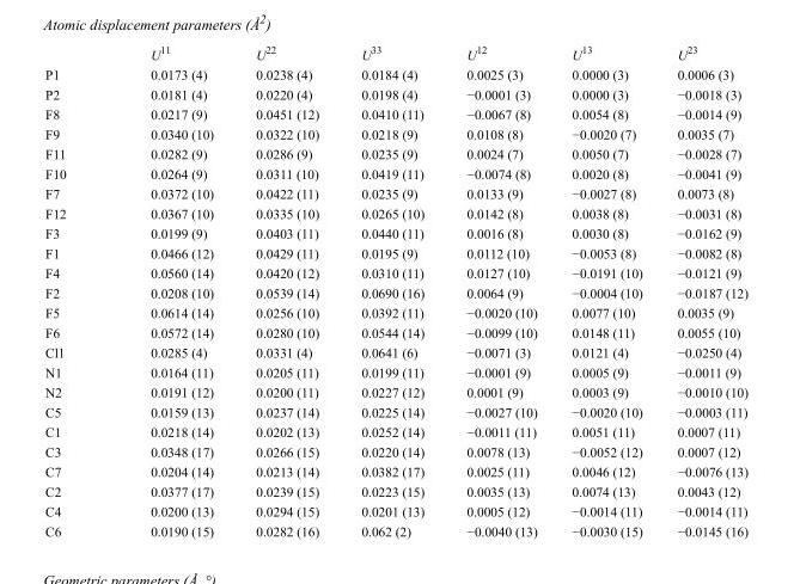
<table><thead><tr><td></td><td>U<sup>11</sup></td><td>U<sup>22</sup></td><td>U<sup>33</sup></td><td>U<sup>12</sup></td><td>U<sup>13</sup></td><td>U<sup>23</sup></td></tr></thead><tbody><tr><td>P1</td><td>0.0173 (4)</td><td>0.0238 (4)</td><td>0.0184 (4)</td><td>0.0025 (3)</td><td>0.0000 (3)</td><td>0.0006 (3)</td></tr><tr><td>P2</td><td>0.0181 (4)</td><td>0.0220 (4)</td><td>0.0198 (4)</td><td>−0.0001 (3)</td><td>0.0000 (3)</td><td>−0.0018 (3)</td></tr><tr><td>F8</td><td>0.0217 (9)</td><td>0.0451 (12)</td><td>0.0410 (11)</td><td>−0.0067 (8)</td><td>0.0054 (8)</td><td>−0.0014 (9)</td></tr><tr><td>F9</td><td>0.0340 (10)</td><td>0.0322 (10)</td><td>0.0218 (9)</td><td>0.0108 (8)</td><td>−0.0020 (7)</td><td>0.0035 (7)</td></tr><tr><td>F11</td><td>0.0282 (9)</td><td>0.0286 (9)</td><td>0.0235 (9)</td><td>0.0024 (7)</td><td>0.0050 (7)</td><td>−0.0028 (7)</td></tr><tr><td>F10</td><td>0.0264 (9)</td><td>0.0311 (10)</td><td>0.0419 (11)</td><td>−0.0074 (8)</td><td>0.0020 (8)</td><td>−0.0041 (9)</td></tr><tr><td>F7</td><td>0.0372 (10)</td><td>0.0422 (11)</td><td>0.0235 (9)</td><td>0.0133 (9)</td><td>−0.0027 (8)</td><td>0.0073 (8)</td></tr><tr><td>F12</td><td>0.0367 (10)</td><td>0.0335 (10)</td><td>0.0265 (10)</td><td>0.0142 (8)</td><td>0.0038 (8)</td><td>−0.0031 (8)</td></tr><tr><td>F3</td><td>0.0199 (9)</td><td>0.0403 (11)</td><td>0.0440 (11)</td><td>0.0016 (8)</td><td>0.0030 (8)</td><td>−0.0162 (9)</td></tr><tr><td>F1</td><td>0.0466 (12)</td><td>0.0429 (11)</td><td>0.0195 (9)</td><td>0.0112 (10)</td><td>−0.0053 (8)</td><td>−0.0082 (8)</td></tr><tr><td>F4</td><td>0.0560 (14)</td><td>0.0420 (12)</td><td>0.0310 (11)</td><td>0.0127 (10)</td><td>−0.0191 (10)</td><td>−0.0121 (9)</td></tr><tr><td>F2</td><td>0.0208 (10)</td><td>0.0539 (14)</td><td>0.0690 (16)</td><td>0.0064 (9)</td><td>−0.0004 (10)</td><td>−0.0187 (12)</td></tr><tr><td>F5</td><td>0.0614 (14)</td><td>0.0256 (10)</td><td>0.0392 (11)</td><td>−0.0020 (10)</td><td>0.0077 (10)</td><td>0.0035 (9)</td></tr><tr><td>F6</td><td>0.0572 (14)</td><td>0.0280 (10)</td><td>0.0544 (14)</td><td>−0.0099 (10)</td><td>0.0148 (11)</td><td>0.0055 (10)</td></tr><tr><td>Cl1</td><td>0.0285 (4)</td><td>0.0331 (4)</td><td>0.0641 (6)</td><td>−0.0071 (3)</td><td>0.0121 (4)</td><td>−0.0250 (4)</td></tr><tr><td>N1</td><td>0.0164 (11)</td><td>0.0205 (11)</td><td>0.0199 (11)</td><td>−0.0001 (9)</td><td>0.0005 (9)</td><td>−0.0011 (9)</td></tr><tr><td>N2</td><td>0.0191 (12)</td><td>0.0200 (11)</td><td>0.0227 (12)</td><td>0.0001 (9)</td><td>0.0003 (9)</td><td>−0.0010 (10)</td></tr><tr><td>C5</td><td>0.0159 (13)</td><td>0.0237 (14)</td><td>0.0225 (14)</td><td>−0.0027 (10)</td><td>−0.0020 (10)</td><td>−0.0003 (11)</td></tr><tr><td>C1</td><td>0.0218 (14)</td><td>0.0202 (13)</td><td>0.0252 (14)</td><td>−0.0011 (11)</td><td>0.0051 (11)</td><td>0.0007 (11)</td></tr><tr><td>C3</td><td>0.0348 (17)</td><td>0.0266 (15)</td><td>0.0220 (14)</td><td>0.0078 (13)</td><td>−0.0052 (12)</td><td>0.0007 (12)</td></tr><tr><td>C7</td><td>0.0204 (14)</td><td>0.0213 (14)</td><td>0.0382 (17)</td><td>0.0025 (11)</td><td>0.0046 (12)</td><td>−0.0076 (13)</td></tr><tr><td>C2</td><td>0.0377 (17)</td><td>0.0239 (15)</td><td>0.0223 (15)</td><td>0.0035 (13)</td><td>0.0074 (13)</td><td>0.0043 (12)</td></tr><tr><td>C4</td><td>0.0200 (13)</td><td>0.0294 (15)</td><td>0.0201 (13)</td><td>0.0005 (12)</td><td>−0.0014 (11)</td><td>−0.0014 (11)</td></tr><tr><td>C6</td><td>0.0190 (15)</td><td>0.0282 (16)</td><td>0.062 (2)</td><td>−0.0040 (13)</td><td>−0.0030 (15)</td><td>−0.0145 (16)</td></tr></tbody></table>